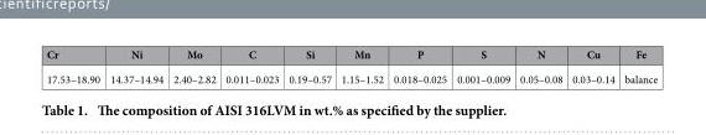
<table><thead><tr><td>Cr</td><td>Ni</td><td>Mo</td><td>C</td><td>Si</td><td>Mn</td><td>P</td><td>S</td><td>N</td><td>Cu</td><td>Fe</td></tr></thead><tbody><tr><td>17.53–18.90</td><td>14.37–14.94</td><td>2.40–2.82</td><td>0.011–0.023</td><td>0.19–0.57</td><td>1.15–1.52</td><td>0.018–0.025</td><td>0.001–0.009</td><td>0.05–0.08</td><td>0.03–0.14</td><td>balance</td></tr></tbody></table>